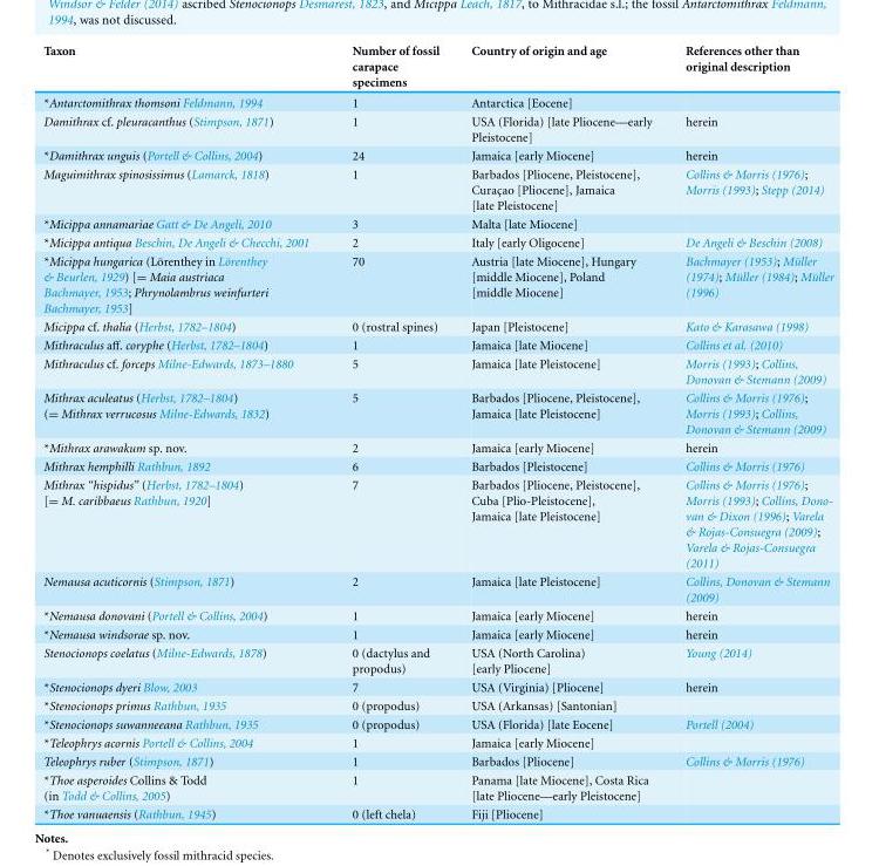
<table><thead><tr><td>Taxon</td><td>Number of fossil carapace specimens</td><td>Country of origin and age</td><td>References other than original description</td></tr></thead><tbody><tr><td>*Antarctomithrax thomsoni Feldmann, 1994</td><td>1</td><td>Antarctica [Eocene]</td><td></td></tr><tr><td>Damithrax cf. pleuracanthus (Stimpson, 1871)</td><td>1</td><td>USA (Florida) [late Pliocene—early Pleistocene]</td><td>herein</td></tr><tr><td>*Damithrax unguis (Portell &amp; Collins, 2004)</td><td>24</td><td>Jamaica [early Miocene]</td><td>herein</td></tr><tr><td>Maguimithrax spinosissimus (Lamarck, 1818)</td><td>1</td><td>Barbados [Pliocene, Pleistocene], Curac¸ao [Pliocene], Jamaica [late Pleistocene]</td><td>Collins &amp; Morris (1976); Morris (1993); Stepp (2014)</td></tr><tr><td>*Micippa annamariae Gatt &amp; De Angeli, 2010</td><td>3</td><td>Malta [late Miocene]</td><td></td></tr><tr><td>*Micippa antiqua Beschin, De Angeli &amp; Checchi, 2001</td><td>2</td><td>Italy [early Oligocene]</td><td>De Angeli &amp; Beschin (2008)</td></tr><tr><td>*Micippa hungarica (L¨orenthey in L¨orenthey &amp; Beurlen, 1929) [= Maia austriaca Bachmayer, 1953; Phrynolambrus weinfurteri Bachmayer, 1953]</td><td>70</td><td>Austria [late Miocene], Hungary [middle Miocene], Poland [middle Miocene]</td><td>Bachmayer (1953); M¨uller (1974); M¨uller (1984); M¨uller (1996)</td></tr><tr><td>Micippa cf. thalia (Herbst, 1782–1804)</td><td>0 (rostral spines)</td><td>Japan [Pleistocene]</td><td>Kato &amp; Karasawa (1998)</td></tr><tr><td>Mithraculus aff. coryphe (Herbst, 1782–1804)</td><td>1</td><td>Jamaica [late Miocene]</td><td>Collins et al. (2010)</td></tr><tr><td>Mithraculus cf. forceps Milne-Edwards, 1873–1880</td><td>5</td><td>Jamaica [late Pleistocene]</td><td>Morris (1993); Collins, Donovan &amp; Stemann (2009)</td></tr><tr><td>Mithrax aculeatus (Herbst, 1782–1804) (= Mithrax verrucosus Milne-Edwards, 1832)</td><td>5</td><td>Barbados [Pliocene, Pleistocene], Jamaica [late Pleistocene]</td><td>Collins &amp; Morris (1976); Morris (1993); Collins, Donovan &amp; Stemann (2009)</td></tr><tr><td>*Mithrax arawakum sp. nov.</td><td>2</td><td>Jamaica [early Miocene]</td><td>herein</td></tr><tr><td>Mithrax hemphilli Rathbun, 1892</td><td>6</td><td>Barbados [Pleistocene]</td><td>Collins &amp; Morris (1976)</td></tr><tr><td>Mithrax “hispidus” (Herbst, 1782–1804) [= M. caribbaeus Rathbun, 1920]</td><td>7</td><td>Barbados [Pliocene, Pleistocene], Cuba [Plio-Pleistocene], Jamaica [late Pleistocene]</td><td>Collins &amp; Morris (1976); Morris (1993); Collins, Dono- van &amp; Dixon (1996); Varela &amp; Rojas-Consuegra (2009); Varela &amp; Rojas-Consuegra (2011)</td></tr><tr><td>Nemausa acuticornis (Stimpson, 1871)</td><td>2</td><td>Jamaica [late Pleistocene]</td><td>Collins, Donovan &amp; Stemann (2009)</td></tr><tr><td>*Nemausa donovani (Portell &amp; Collins, 2004)</td><td>1</td><td>Jamaica [early Miocene]</td><td>herein</td></tr><tr><td>*Nemausa windsorae sp. nov.</td><td>1</td><td>Jamaica [early Miocene]</td><td>herein</td></tr><tr><td>Stenocionops coelatus (Milne-Edwards, 1878)</td><td>0 (dactylus and propodus)</td><td>USA (North Carolina) [early Pliocene]</td><td>Young (2014)</td></tr><tr><td>*Stenocionops dyeri Blow, 2003</td><td>7</td><td>USA (Virginia) [Pliocene]</td><td>herein</td></tr><tr><td>*Stenocionops primus Rathbun, 1935</td><td>0 (propodus)</td><td>USA (Arkansas) [Santonian]</td><td></td></tr><tr><td>*Stenocionops suwanneeana Rathbun, 1935</td><td>0 (propodus)</td><td>USA (Florida) [late Eocene]</td><td>Portell (2004)</td></tr><tr><td>*Teleophrys acornis Portell &amp; Collins, 2004</td><td>1</td><td>Jamaica [early Miocene]</td><td></td></tr><tr><td>Teleophrys ruber (Stimpson, 1871)</td><td>1</td><td>Barbados [Pliocene]</td><td>Collins &amp; Morris (1976)</td></tr><tr><td>*Thoe asperoides Collins &amp; Todd (in Todd &amp; Collins, 2005)</td><td>1</td><td>Panama [late Miocene], Costa Rica [late Pliocene—early Pleistocene]</td><td></td></tr><tr><td>*Thoe vanuaensis (Rathbun, 1945)</td><td>0 (left chela)</td><td>Fiji [Pliocene]</td><td></td></tr></tbody></table>